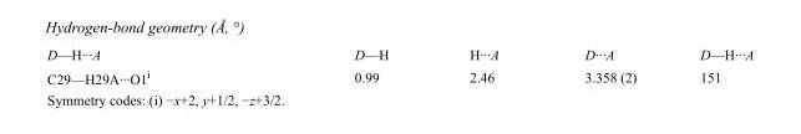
<table><tbody><tr><td>D—H···A</td><td>D—H</td><td>H···A</td><td>D···A</td><td>D—H···A</td></tr><tr><td>C29—H29A···O1<sup>i</sup></td><td>0.99</td><td>2.46</td><td>3.358 (2)</td><td>151</td></tr></tbody></table>